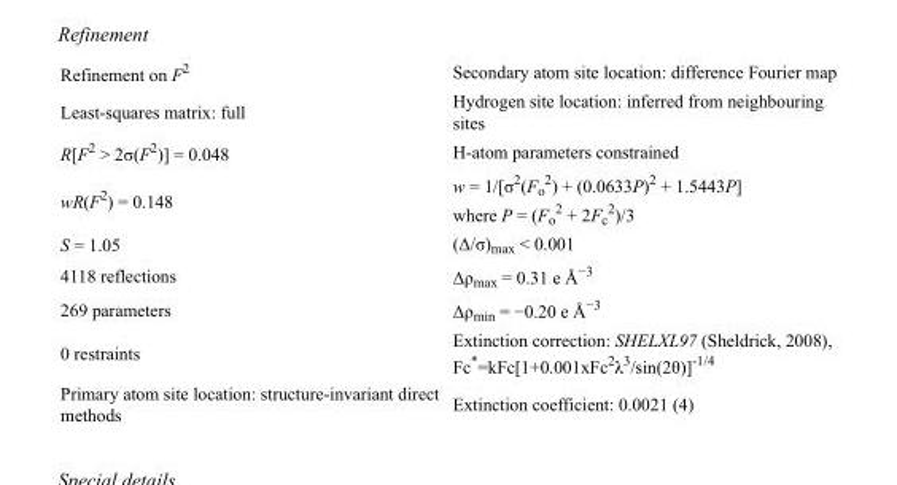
<table><tbody><tr><td>Refinement on F<sup>2</sup></td><td>Secondary atom site location: difference Fourier map</td></tr><tr><td>Least-squares matrix: full</td><td>Hydrogen site location: inferred from neighbouring sites</td></tr><tr><td>R[F<sup>2</sup> &gt; 2σ(F<sup>2</sup>)] = 0.048</td><td>H-atom parameters constrained</td></tr><tr><td>wR(F<sup>2</sup>) = 0.148</td><td>w = 1/[σ<sup>2</sup>(F<sub>o</sub> <sup>2</sup>) + (0.0633P)<sup>2</sup> + 1.5443P] where P = (F<sub>o</sub> <sup>2</sup> + 2F<sub>c</sub> <sup>2</sup>)/3</td></tr><tr><td>S = 1.05</td><td>(Δ/σ)<sub>max</sub> &lt; 0.001</td></tr><tr><td>4118 reflections</td><td>Δρ<sub>max</sub> = 0.31 e Å<sup>−3</sup></td></tr><tr><td>269 parameters</td><td>Δρ<sub>min</sub> = −0.20 e Å<sup>−3</sup></td></tr><tr><td>0 restraints</td><td>Extinction correction: SHELXL97 (Sheldrick, 2008), Fc*=kFc[1+0.001xFc<sup>2</sup>λ<sup>3</sup>/sin(2θ)]<sup>-1/4</sup></td></tr><tr><td>Primary atom site location: structure-invariant direct methods</td><td>Extinction coefficient: 0.0021 (4)</td></tr></tbody></table>